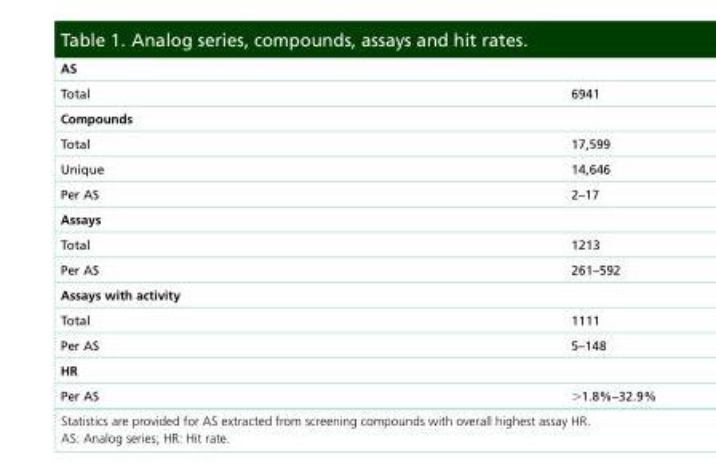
<table><tbody><tr><td colspan="2">AS</td></tr><tr><td>Total</td><td>6941</td></tr><tr><td colspan="2">Compounds</td></tr><tr><td>Total</td><td>17,599</td></tr><tr><td>Unique</td><td>14,646</td></tr><tr><td>Per AS</td><td>2–17</td></tr><tr><td colspan="2">Assays</td></tr><tr><td>Total</td><td>1213</td></tr><tr><td>Per AS</td><td>261–592</td></tr><tr><td colspan="2">Assays with activity</td></tr><tr><td>Total</td><td>1111</td></tr><tr><td>Per AS</td><td>5–148</td></tr><tr><td colspan="2">HR</td></tr><tr><td>Per AS</td><td>&gt;1.8%–32.9%</td></tr></tbody></table>